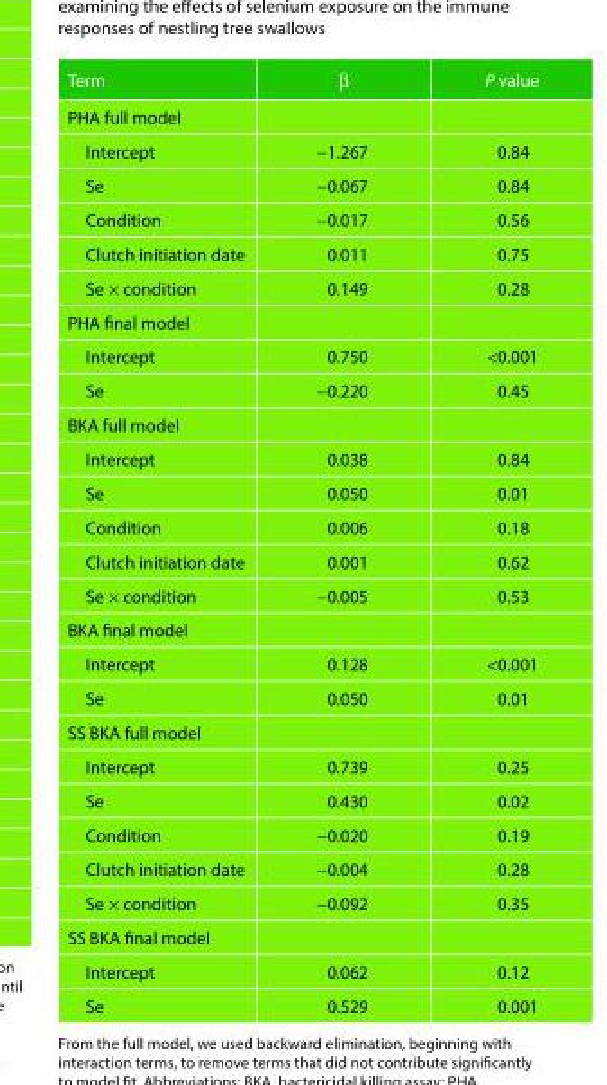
<table><thead><tr><td>Term</td><td>β</td><td>P value</td></tr></thead><tbody><tr><td colspan="3">PHA full model</td></tr><tr><td>Intercept</td><td>−1.267</td><td>0.84</td></tr><tr><td>Se</td><td>−0.067</td><td>0.84</td></tr><tr><td>Condition</td><td>−0.017</td><td>0.56</td></tr><tr><td>Clutch initiation date</td><td>0.011</td><td>0.75</td></tr><tr><td>Se × condition</td><td>0.149</td><td>0.28</td></tr><tr><td colspan="3">PHA final model</td></tr><tr><td>Intercept</td><td>0.750</td><td>&lt;0.001</td></tr><tr><td>Se</td><td>−0.220</td><td>0.45</td></tr><tr><td colspan="3">BKA full model</td></tr><tr><td>Intercept</td><td>0.038</td><td>0.84</td></tr><tr><td>Se</td><td>0.050</td><td>0.01</td></tr><tr><td>Condition</td><td>0.006</td><td>0.18</td></tr><tr><td>Clutch initiation date</td><td>0.001</td><td>0.62</td></tr><tr><td>Se × condition</td><td>−0.005</td><td>0.53</td></tr><tr><td colspan="3">BKA final model</td></tr><tr><td>Intercept</td><td>0.128</td><td>&lt;0.001</td></tr><tr><td>Se</td><td>0.050</td><td>0.01</td></tr><tr><td colspan="3">SS BKA full model</td></tr><tr><td>Intercept</td><td>0.739</td><td>0.25</td></tr><tr><td>Se</td><td>0.430</td><td>0.02</td></tr><tr><td>Condition</td><td>−0.020</td><td>0.19</td></tr><tr><td>Clutch initiation date</td><td>−0.004</td><td>0.28</td></tr><tr><td>Se × condition</td><td>−0.092</td><td>0.35</td></tr><tr><td colspan="3">SS BKA final model</td></tr><tr><td>Intercept</td><td>0.062</td><td>0.12</td></tr><tr><td>Se</td><td>0.529</td><td>0.001</td></tr></tbody></table>